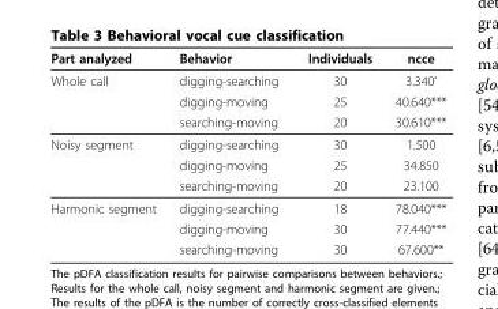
<table><thead><tr><td>Part analyzed</td><td>Behavior</td><td>Individuals</td><td>ncce</td></tr></thead><tbody><tr><td rowspan="3">Whole call</td><td>digging-searching</td><td>30</td><td>3.340<sup>•</sup></td></tr><tr><td>digging-moving</td><td>25</td><td>40.640***</td></tr><tr><td>searching-moving</td><td>20</td><td>30.610***</td></tr><tr><td rowspan="3">Noisy segment</td><td>digging-searching</td><td>30</td><td>1.500</td></tr><tr><td>digging-moving</td><td>25</td><td>34.850</td></tr><tr><td>searching-moving</td><td>20</td><td>23.100</td></tr><tr><td rowspan="3">Harmonic segment</td><td>digging-searching</td><td>18</td><td>78.040***</td></tr><tr><td>digging-moving</td><td>30</td><td>77.440***</td></tr><tr><td>searching-moving</td><td>30</td><td>67.600**</td></tr></tbody></table>